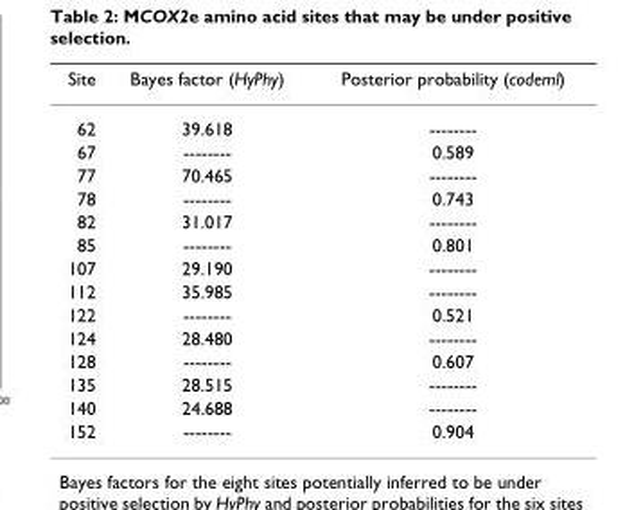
<table><thead><tr><td>Site</td><td>Bayes factor (HyPhy)</td><td>Posterior probability (codeml)</td></tr></thead><tbody><tr><td>62</td><td>39.618</td><td>--------</td></tr><tr><td>67</td><td>--------</td><td>0.589</td></tr><tr><td>77</td><td>70.465</td><td>--------</td></tr><tr><td>78</td><td>--------</td><td>0.743</td></tr><tr><td>82</td><td>31.017</td><td>--------</td></tr><tr><td>85</td><td>--------</td><td>0.801</td></tr><tr><td>107</td><td>29.190</td><td>--------</td></tr><tr><td>112</td><td>35.985</td><td>--------</td></tr><tr><td>122</td><td>--------</td><td>0.521</td></tr><tr><td>124</td><td>28.480</td><td>--------</td></tr><tr><td>128</td><td>--------</td><td>0.607</td></tr><tr><td>135</td><td>28.515</td><td>--------</td></tr><tr><td>140</td><td>24.688</td><td>--------</td></tr><tr><td>152</td><td>--------</td><td>0.904</td></tr></tbody></table>